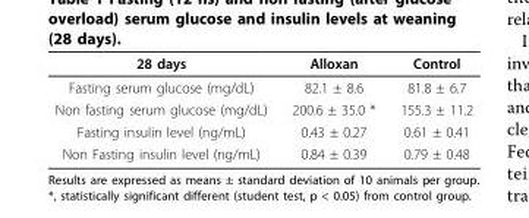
<table><thead><tr><td>28 days</td><td>Alloxan</td><td>Control</td></tr></thead><tbody><tr><td>Fasting serum glucose (mg/dL)</td><td>82.1 ± 8.6</td><td>81.8 ± 6.7</td></tr><tr><td>Non fasting serum glucose (mg/dL)</td><td>200.6 ± 35.0 *</td><td>155.3 ± 11.2</td></tr><tr><td>Fasting insulin level (ng/mL)</td><td>0.43 ± 0.27</td><td>0.61 ± 0.41</td></tr><tr><td>Non Fasting insulin level (ng/mL)</td><td>0.84 ± 0.39</td><td>0.79 ± 0.48</td></tr></tbody></table>